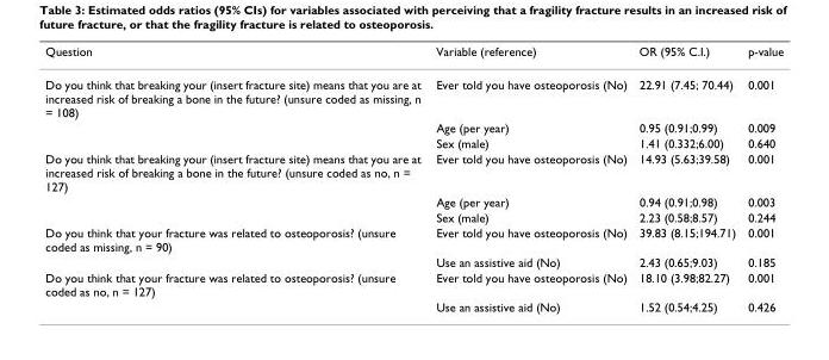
<table><thead><tr><td>Question</td><td>Variable (reference)</td><td>OR (95% C.I.)</td><td>p-value</td></tr></thead><tbody><tr><td rowspan="3">Do you think that breaking your (insert fracture site) means that you are at increased risk of breaking a bone in the future? (unsure coded as missing, n = 108)</td><td>Ever told you have osteoporosis (No)</td><td>22.91 (7.45; 70.44)</td><td>0.001</td></tr><tr><td>Age (per year)</td><td>0.95 (0.91;0.99)</td><td>0.009</td></tr><tr><td>Sex (male)</td><td>1.41 (0.332;6.00)</td><td>0.640</td></tr><tr><td rowspan="3">Do you think that breaking your (insert fracture site) means that you are at increased risk of breaking a bone in the future? (unsure coded as no, n = 127)</td><td>Ever told you have osteoporosis (No)</td><td>14.93 (5.63;39.58)</td><td>0.001</td></tr><tr><td>Age (per year)</td><td>0.94 (0.91;0.98)</td><td>0.003</td></tr><tr><td>Sex (male)</td><td>2.23 (0.58;8.57)</td><td>0.244</td></tr><tr><td rowspan="2">Do you think that your fracture was related to osteoporosis? (unsure coded as missing, n = 90)</td><td>Ever told you have osteoporosis (No)</td><td>39.83 (8.15;194.71)</td><td>0.001</td></tr><tr><td>Use an assistive aid (No)</td><td>2.43 (0.65;9.03)</td><td>0.185</td></tr><tr><td rowspan="2">Do you think that your fracture was related to osteoporosis? (unsure coded as no, n = 127)</td><td>Ever told you have osteoporosis (No)</td><td>18.10 (3.98;82.27)</td><td>0.001</td></tr><tr><td>Use an assistive aid (No)</td><td>1.52 (0.54;4.25)</td><td>0.426</td></tr></tbody></table>